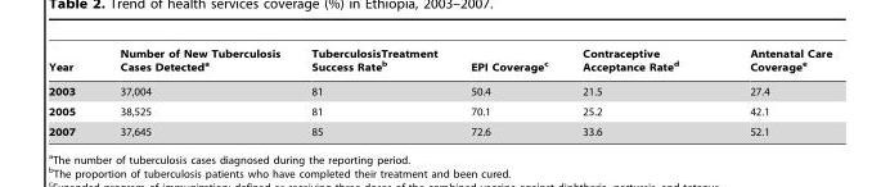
<table><thead><tr><td>Year</td><td>Number of New Tuberculosis Cases Detected<sup>a</sup></td><td>TuberculosisTreatment Success Rate<sup>b</sup></td><td>EPI Coverage<sup>c</sup></td><td>Contraceptive Acceptance Rate<sup>d</sup></td><td>Antenatal Care Coverage<sup>e</sup></td></tr></thead><tbody><tr><td>2003</td><td>37,004</td><td>81</td><td>50.4</td><td>21.5</td><td>27.4</td></tr><tr><td>2005</td><td>38,525</td><td>81</td><td>70.1</td><td>25.2</td><td>42.1</td></tr><tr><td>2007</td><td>37,645</td><td>85</td><td>72.6</td><td>33.6</td><td>52.1</td></tr></tbody></table>